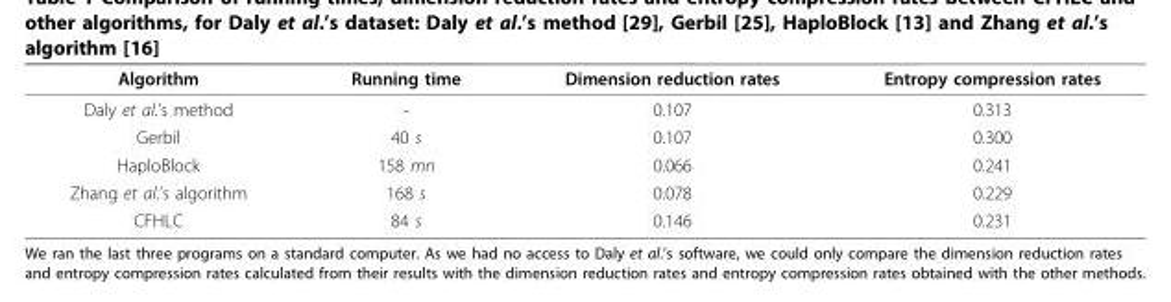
<table><thead><tr><td>Algorithm</td><td>Running time</td><td>Dimension reduction rates</td><td>Entropy compression rates</td></tr></thead><tbody><tr><td>Daly et al.’s method</td><td>-</td><td>0.107</td><td>0.313</td></tr><tr><td>Gerbil</td><td>40 s</td><td>0.107</td><td>0.300</td></tr><tr><td>HaploBlock</td><td>158 mn</td><td>0.066</td><td>0.241</td></tr><tr><td>Zhang et al.’s algorithm</td><td>168 s</td><td>0.078</td><td>0.229</td></tr><tr><td>CFHLC</td><td>84 s</td><td>0.146</td><td>0.231</td></tr></tbody></table>